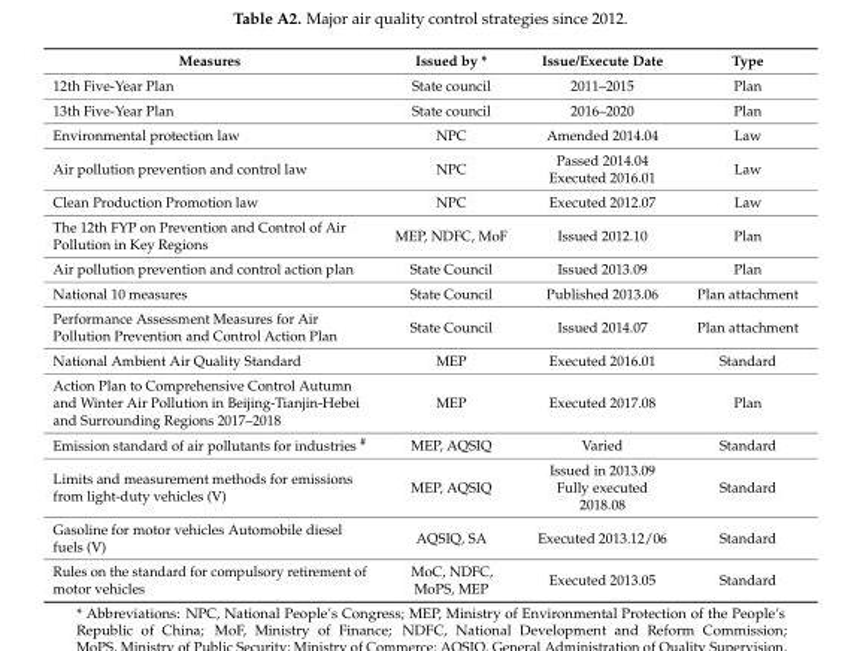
<table><thead><tr><td>Measures</td><td>Issued by *</td><td>Issue/Execute Date</td><td>Type</td></tr></thead><tbody><tr><td>12th Five-Year Plan</td><td>State council</td><td>2011–2015</td><td>Plan</td></tr><tr><td>13th Five-Year Plan</td><td>State council</td><td>2016–2020</td><td>Plan</td></tr><tr><td>Environmental protection law</td><td>NPC</td><td>Amended 2014.04</td><td>Law</td></tr><tr><td>Air pollution prevention and control law</td><td>NPC</td><td>Passed 2014.04 Executed 2016.01</td><td>Law</td></tr><tr><td>Clean Production Promotion law</td><td>NPC</td><td>Executed 2012.07</td><td>Law</td></tr><tr><td>The 12th FYP on Prevention and Control of Air Pollution in Key Regions</td><td>MEP, NDFC, MoF</td><td>Issued 2012.10</td><td>Plan</td></tr><tr><td>Air pollution prevention and control action plan</td><td>State Council</td><td>Issued 2013.09</td><td>Plan</td></tr><tr><td>National 10 measures</td><td>State Council</td><td>Published 2013.06</td><td>Plan attachment</td></tr><tr><td>Performance Assessment Measures for Air Pollution Prevention and Control Action Plan</td><td>State Council</td><td>Issued 2014.07</td><td>Plan attachment</td></tr><tr><td>National Ambient Air Quality Standard</td><td>MEP</td><td>Executed 2016.01</td><td>Standard</td></tr><tr><td>Action Plan to Comprehensive Control Autumn and Winter Air Pollution in Beijing-Tianjin-Hebei and Surrounding Regions 2017–2018</td><td>MEP</td><td>Executed 2017.08</td><td>Plan</td></tr><tr><td>Emission standard of air pollutants for industries <sup>#</sup></td><td>MEP, AQSIQ</td><td>Varied</td><td>Standard</td></tr><tr><td>Limits and measurement methods for emissions from light-duty vehicles (V)</td><td>MEP, AQSIQ</td><td>Issued in 2013.09 Fully executed 2018.08</td><td>Standard</td></tr><tr><td>Gasoline for motor vehicles Automobile diesel fuels (V)</td><td>AQSIQ, SA</td><td>Executed 2013.12/06</td><td>Standard</td></tr><tr><td>Rules on the standard for compulsory retirement of motor vehicles</td><td>MoC, NDFC, MoPS, MEP</td><td>Executed 2013.05</td><td>Standard</td></tr></tbody></table>